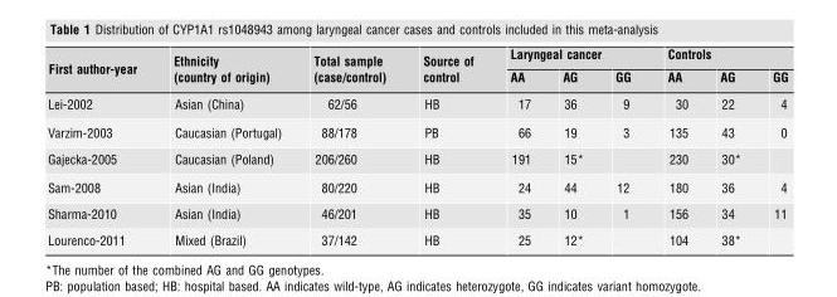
<table><thead><tr><td rowspan="2">First author-year</td><td rowspan="2">Ethnicity (country of origin)</td><td rowspan="2">Total sample (case/control)</td><td rowspan="2">Source of control</td><td colspan="3">Laryngeal cancer</td><td colspan="3">Controls</td></tr><tr><td>AA</td><td>AG</td><td>GG</td><td>AA</td><td>AG</td><td>GG</td></tr></thead><tbody><tr><td>Lei-2002</td><td>Asian (China)</td><td>62/56</td><td>HB</td><td>17</td><td>36</td><td>9</td><td>30</td><td>22</td><td>4</td></tr><tr><td>Varzim-2003</td><td>Caucasian (Portugal)</td><td>88/178</td><td>PB</td><td>66</td><td>19</td><td>3</td><td>135</td><td>43</td><td>0</td></tr><tr><td>Gajecka-2005</td><td>Caucasian (Poland)</td><td>206/260</td><td>HB</td><td>191</td><td>15*</td><td></td><td>230</td><td>30*</td><td></td></tr><tr><td>Sam-2008</td><td>Asian (India)</td><td>80/220</td><td>HB</td><td>24</td><td>44</td><td>12</td><td>180</td><td>36</td><td>4</td></tr><tr><td>Sharma-2010</td><td>Asian (India)</td><td>46/201</td><td>HB</td><td>35</td><td>10</td><td>1</td><td>156</td><td>34</td><td>11</td></tr><tr><td>Lourenco-2011</td><td>Mixed (Brazil)</td><td>37/142</td><td>HB</td><td>25</td><td>12*</td><td></td><td>104</td><td>38*</td><td></td></tr></tbody></table>